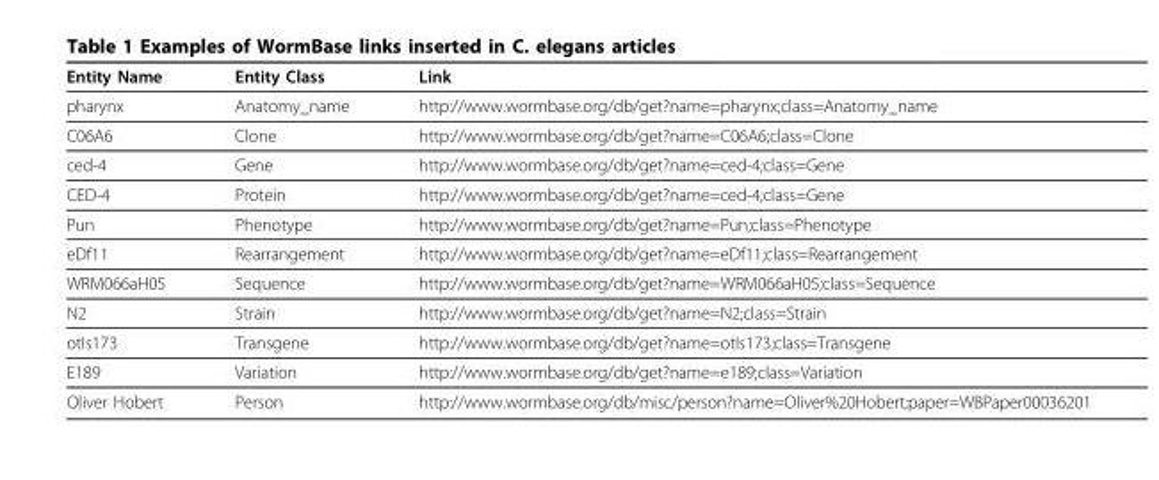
<table><thead><tr><td>Entity Name</td><td>Entity Class</td><td>Link</td></tr></thead><tbody><tr><td>pharynx</td><td>Anatomy_name</td><td>http://www.wormbase.org/db/get?name=pharynx;class=Anatomy_name</td></tr><tr><td>C06A6</td><td>Clone</td><td>http://www.wormbase.org/db/get?name=C06A6;class=Clone</td></tr><tr><td>ced-4</td><td>Gene</td><td>http://www.wormbase.org/db/get?name=ced-4;class=Gene</td></tr><tr><td>CED-4</td><td>Protein</td><td>http://www.wormbase.org/db/get?name=ced-4;class=Gene</td></tr><tr><td>Pun</td><td>Phenotype</td><td>http://www.wormbase.org/db/get?name=Pun;class=Phenotype</td></tr><tr><td>eDf11</td><td>Rearrangement</td><td>http://www.wormbase.org/db/get?name=eDf11;class=Rearrangement</td></tr><tr><td>WRM066aH05</td><td>Sequence</td><td>http://www.wormbase.org/db/get?name=WRM066aH05;class=Sequence</td></tr><tr><td>N2</td><td>Strain</td><td>http://www.wormbase.org/db/get?name=N2;class=Strain</td></tr><tr><td>otIs173</td><td>Transgene</td><td>http://www.wormbase.org/db/get?name=otIs173;class=Transgene</td></tr><tr><td>E189</td><td>Variation</td><td>http://www.wormbase.org/db/get?name=e189;class=Variation</td></tr><tr><td>Oliver Hobert</td><td>Person</td><td>http://www.wormbase.org/db/misc/person?name=Oliver%20Hobert;paper=WBPaper00036201</td></tr></tbody></table>